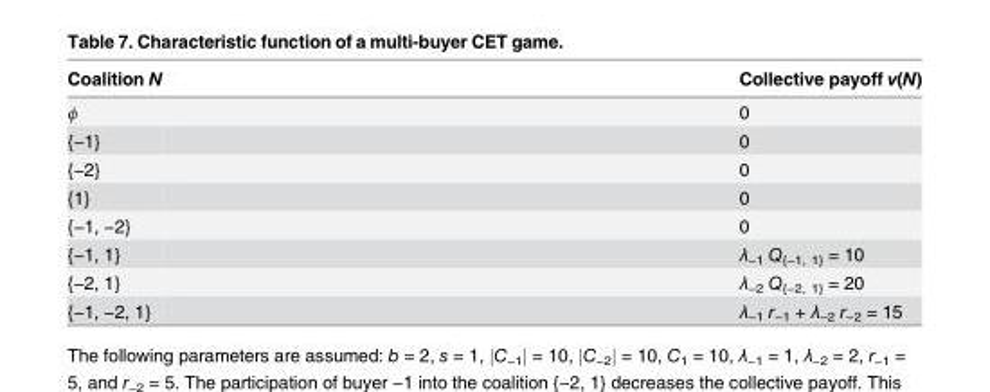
<table><thead><tr><td>Coalition N</td><td>Collective payoff v(N)</td></tr></thead><tbody><tr><td>ϕ</td><td>0</td></tr><tr><td>{−1}</td><td>0</td></tr><tr><td>{−2}</td><td>0</td></tr><tr><td>{1}</td><td>0</td></tr><tr><td>{−1, −2}</td><td>0</td></tr><tr><td>{−1, 1}</td><td>λ<sub>−1</sub> Q<sub>{−1, 1}</sub> = 10</td></tr><tr><td>{−2, 1}</td><td>λ<sub>−2</sub> Q<sub>{−2, 1}</sub> = 20</td></tr><tr><td>{−1, −2, 1}</td><td>λ<sub>−1</sub> r<sub>−1</sub> + λ<sub>−2</sub> r<sub>−2</sub> = 15</td></tr></tbody></table>